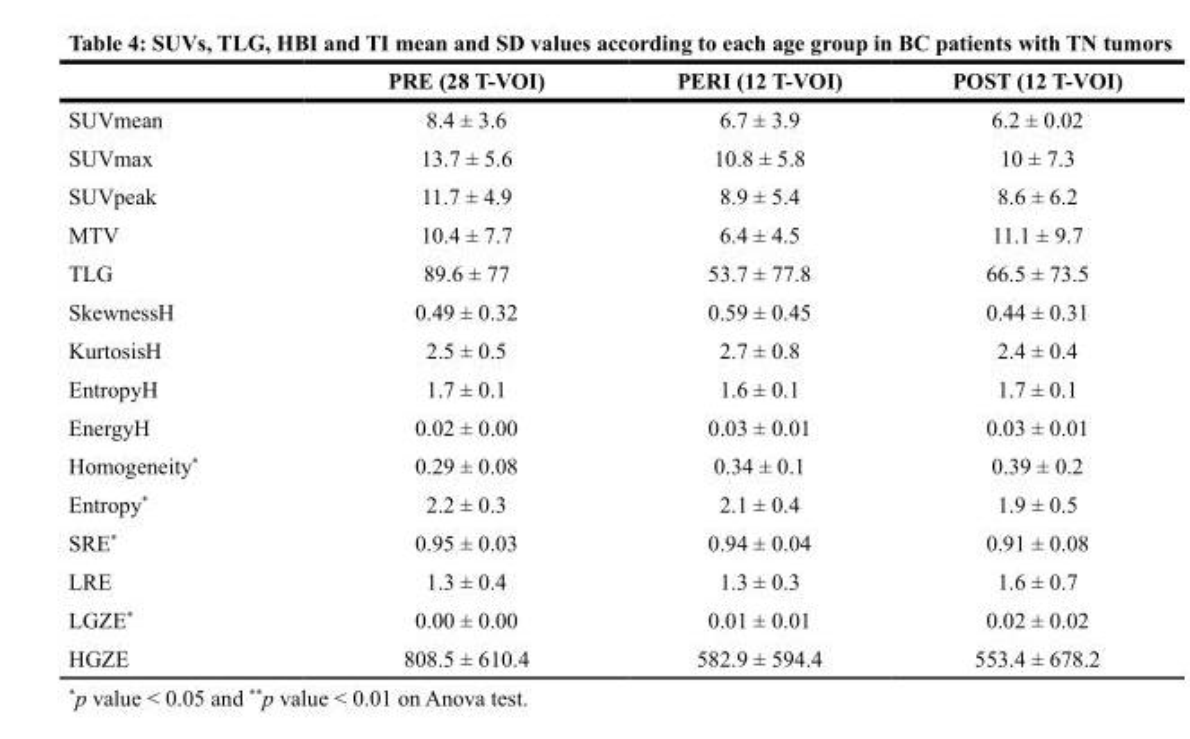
<table><thead><tr><td></td><td>PRE (28 T-VOI)</td><td>PERI (12 T-VOI)</td><td>POST (12 T-VOI)</td></tr></thead><tbody><tr><td>SUVmean</td><td>8.4 ± 3.6</td><td>6.7 ± 3.9</td><td>6.2 ± 0.02</td></tr><tr><td>SUVmax</td><td>13.7 ± 5.6</td><td>10.8 ± 5.8</td><td>10 ± 7.3</td></tr><tr><td>SUVpeak</td><td>11.7 ± 4.9</td><td>8.9 ± 5.4</td><td>8.6 ± 6.2</td></tr><tr><td>MTV</td><td>10.4 ± 7.7</td><td>6.4 ± 4.5</td><td>11.1 ± 9.7</td></tr><tr><td>TLG</td><td>89.6 ± 77</td><td>53.7 ± 77.8</td><td>66.5 ± 73.5</td></tr><tr><td>SkewnessH</td><td>0.49 ± 0.32</td><td>0.59 ± 0.45</td><td>0.44 ± 0.31</td></tr><tr><td>KurtosisH</td><td>2.5 ± 0.5</td><td>2.7 ± 0.8</td><td>2.4 ± 0.4</td></tr><tr><td>EntropyH</td><td>1.7 ± 0.1</td><td>1.6 ± 0.1</td><td>1.7 ± 0.1</td></tr><tr><td>EnergyH</td><td>0.02 ± 0.00</td><td>0.03 ± 0.01</td><td>0.03 ± 0.01</td></tr><tr><td>Homogeneity*</td><td>0.29 ± 0.08</td><td>0.34 ± 0.1</td><td>0.39 ± 0.2</td></tr><tr><td>Entropy*</td><td>2.2 ± 0.3</td><td>2.1 ± 0.4</td><td>1.9 ± 0.5</td></tr><tr><td>SRE*</td><td>0.95 ± 0.03</td><td>0.94 ± 0.04</td><td>0.91 ± 0.08</td></tr><tr><td>LRE</td><td>1.3 ± 0.4</td><td>1.3 ± 0.3</td><td>1.6 ± 0.7</td></tr><tr><td>LGZE*</td><td>0.00 ± 0.00</td><td>0.01 ± 0.01</td><td>0.02 ± 0.02</td></tr><tr><td>HGZE</td><td>808.5 ± 610.4</td><td>582.9 ± 594.4</td><td>553.4 ± 678.2</td></tr></tbody></table>